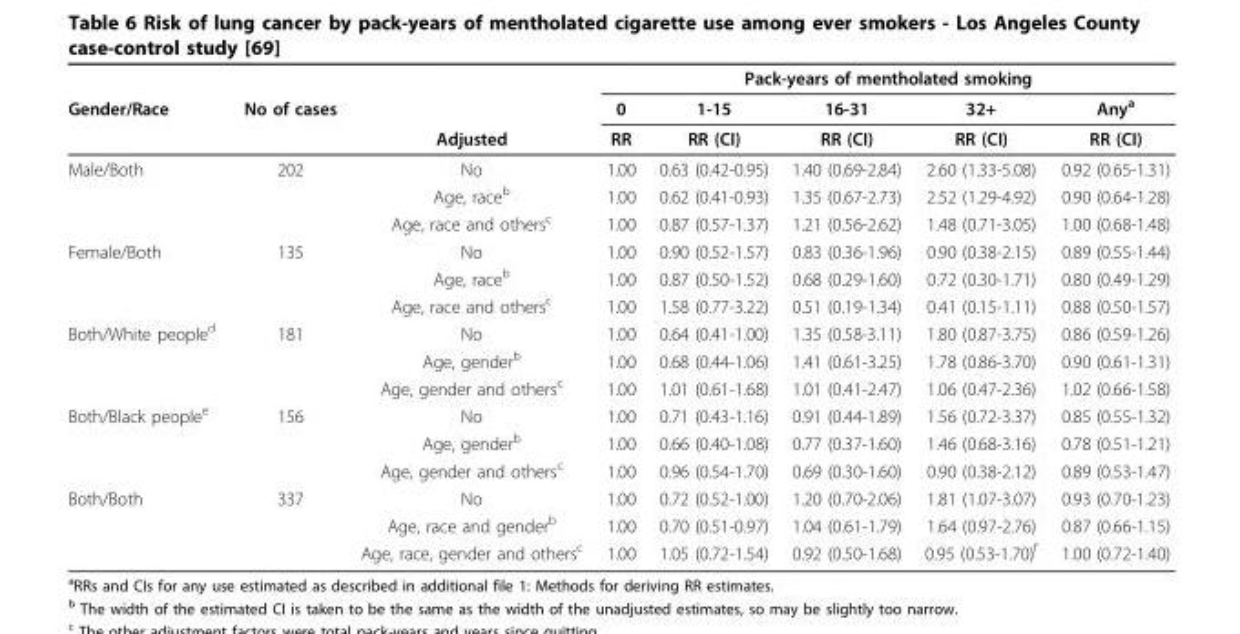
<table><thead><tr><td rowspan="3">Gender/Race</td><td rowspan="3">No of cases</td><td rowspan="3">Adjusted</td><td colspan="5">Pack-years of mentholated smoking</td></tr><tr><td rowspan="2">0 RR</td><td rowspan="2">1-15 RR (CI)</td><td rowspan="2">16-31 RR (CI)</td><td rowspan="2">32+ RR (CI)</td><td rowspan="2">Any<sup>a</sup> RR (CI)</td></tr><tr></tr></thead><tbody><tr><td rowspan="3">Male/Both</td><td>202</td><td>No</td><td>1.00</td><td>0.63 (0.42-0.95)</td><td>1.40 (0.69-2.84)</td><td>2.60 (1.33-5.08)</td><td>0.92 (0.65-1.31)</td></tr><tr><td></td><td>Age, race<sup>b</sup></td><td>1.00</td><td>0.62 (0.41-0.93)</td><td>1.35 (0.67-2.73)</td><td>2.52 (1.29-4.92)</td><td>0.90 (0.64-1.28)</td></tr><tr><td></td><td>Age, race and others<sup>c</sup></td><td>1.00</td><td>0.87 (0.57-1.37)</td><td>1.21 (0.56-2.62)</td><td>1.48 (0.71-3.05)</td><td>1.00 (0.68-1.48)</td></tr><tr><td rowspan="3">Female/Both</td><td>135</td><td>No</td><td>1.00</td><td>0.90 (0.52-1.57)</td><td>0.83 (0.36-1.96)</td><td>0.90 (0.38-2.15)</td><td>0.89 (0.55-1.44)</td></tr><tr><td></td><td>Age, race<sup>b</sup></td><td>1.00</td><td>0.87 (0.50-1.52)</td><td>0.68 (0.29-1.60)</td><td>0.72 (0.30-1.71)</td><td>0.80 (0.49-1.29)</td></tr><tr><td></td><td>Age, race and others<sup>c</sup></td><td>1.00</td><td>1.58 (0.77-3.22)</td><td>0.51 (0.19-1.34)</td><td>0.41 (0.15-1.11)</td><td>0.88 (0.50-1.57)</td></tr><tr><td rowspan="3">Both/White people<sup>d</sup></td><td>181</td><td>No</td><td>1.00</td><td>0.64 (0.41-1.00)</td><td>1.35 (0.58-3.11)</td><td>1.80 (0.87-3.75)</td><td>0.86 (0.59-1.26)</td></tr><tr><td></td><td>Age, gender<sup>b</sup></td><td>1.00</td><td>0.68 (0.44-1.06)</td><td>1.41 (0.61-3.25)</td><td>1.78 (0.86-3.70)</td><td>0.90 (0.61-1.31)</td></tr><tr><td></td><td>Age, gender and others<sup>c</sup></td><td>1.00</td><td>1.01 (0.61-1.68)</td><td>1.01 (0.41-2.47)</td><td>1.06 (0.47-2.36)</td><td>1.02 (0.66-1.58)</td></tr><tr><td rowspan="3">Both/Black people<sup>e</sup></td><td>156</td><td>No</td><td>1.00</td><td>0.71 (0.43-1.16)</td><td>0.91 (0.44-1.89)</td><td>1.56 (0.72-3.37)</td><td>0.85 (0.55-1.32)</td></tr><tr><td></td><td>Age, gender<sup>b</sup></td><td>1.00</td><td>0.66 (0.40-1.08)</td><td>0.77 (0.37-1.60)</td><td>1.46 (0.68-3.16)</td><td>0.78 (0.51-1.21)</td></tr><tr><td></td><td>Age, gender and others<sup>c</sup></td><td>1.00</td><td>0.96 (0.54-1.70)</td><td>0.69 (0.30-1.60)</td><td>0.90 (0.38-2.12)</td><td>0.89 (0.53-1.47)</td></tr><tr><td rowspan="3">Both/Both</td><td>337</td><td>No</td><td>1.00</td><td>0.72 (0.52-1.00)</td><td>1.20 (0.70-2.06)</td><td>1.81 (1.07-3.07)</td><td>0.93 (0.70-1.23)</td></tr><tr><td></td><td>Age, race and gender<sup>b</sup></td><td>1.00</td><td>0.70 (0.51-0.97)</td><td>1.04 (0.61-1.79)</td><td>1.64 (0.97-2.76)</td><td>0.87 (0.66-1.15)</td></tr><tr><td></td><td>Age, race, gender and others<sup>c</sup></td><td>1.00</td><td>1.05 (0.72-1.54)</td><td>0.92 (0.50-1.68)</td><td>0.95 (0.53-1.70)<sup>f</sup></td><td>1.00 (0.72-1.40)</td></tr></tbody></table>